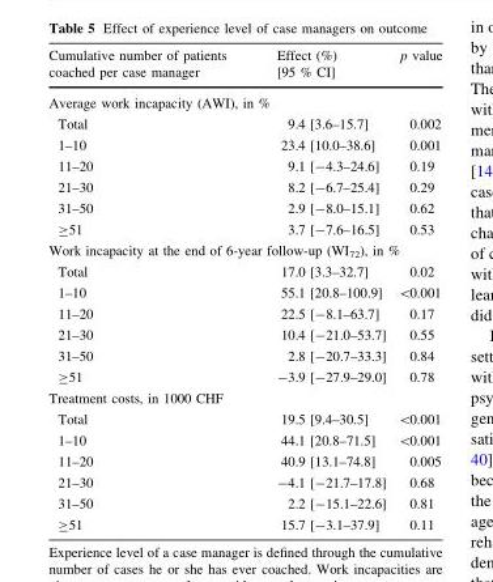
<table><thead><tr><td>Cumulative number of patients coached per case manager</td><td>Effect (%) [95 % CI]</td><td>p value</td></tr></thead><tbody><tr><td colspan="3">Average work incapacity (AWI), in %</td></tr><tr><td>Total</td><td>9.4 [3.6–15.7]</td><td>0.002</td></tr><tr><td>1–10</td><td>23.4 [10.0–38.6]</td><td>0.001</td></tr><tr><td>11–20</td><td>9.1 [-4.3–24.6]</td><td>0.19</td></tr><tr><td>21–30</td><td>8.2 [-6.7–25.4]</td><td>0.29</td></tr><tr><td>31–50</td><td>2.9 [-8.0–15.1]</td><td>0.62</td></tr><tr><td>≥51</td><td>3.7 [-7.6–16.5]</td><td>0.53</td></tr><tr><td colspan="3">Work incapacity at the end of 6-year follow-up (WI<sub>72</sub>), in %</td></tr><tr><td>Total</td><td>17.0 [3.3–32.7]</td><td>0.02</td></tr><tr><td>1–10</td><td>55.1 [20.8–100.9]</td><td>&lt;0.001</td></tr><tr><td>11–20</td><td>22.5 [-8.1–63.7]</td><td>0.17</td></tr><tr><td>21–30</td><td>10.4 [-21.0–53.7]</td><td>0.55</td></tr><tr><td>31–50</td><td>2.8 [-20.7–33.3]</td><td>0.84</td></tr><tr><td>≥51</td><td>-3.9 [-27.9–29.0]</td><td>0.78</td></tr><tr><td colspan="3">Treatment costs, in 1000 CHF</td></tr><tr><td>Total</td><td>19.5 [9.4–30.5]</td><td>&lt;0.001</td></tr><tr><td>1–10</td><td>44.1 [20.8–71.5]</td><td>&lt;0.001</td></tr><tr><td>11–20</td><td>40.9 [13.1–74.8]</td><td>0.005</td></tr><tr><td>21–30</td><td>-4.1 [-21.7–17.8]</td><td>0.68</td></tr><tr><td>31–50</td><td>2.2 [-15.1–22.6]</td><td>0.81</td></tr><tr><td>≥51</td><td>15.7 [-3.1–37.9]</td><td>0.11</td></tr></tbody></table>